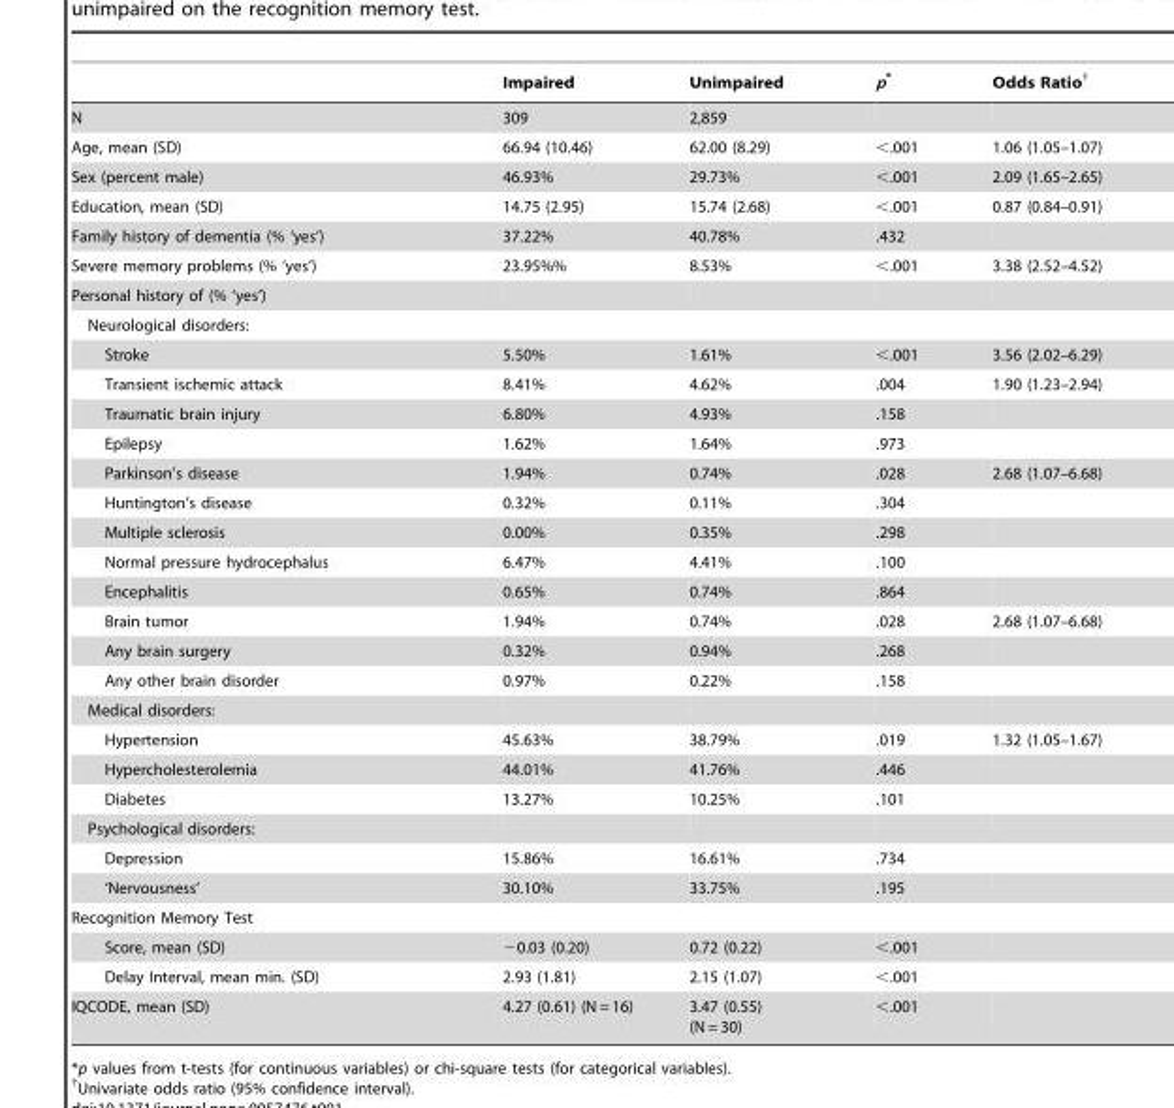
<table><thead><tr><td></td><td>Impaired</td><td>Unimpaired</td><td>p*</td><td>Odds Ratio†</td></tr></thead><tbody><tr><td>N</td><td>309</td><td>2,859</td><td></td><td></td></tr><tr><td>Age, mean (SD)</td><td>66.94 (10.46)</td><td>62.00 (8.29)</td><td>&lt;.001</td><td>1.06 (1.05–1.07)</td></tr><tr><td>Sex (percent male)</td><td>46.93%</td><td>29.73%</td><td>&lt;.001</td><td>2.09 (1.65–2.65)</td></tr><tr><td>Education, mean (SD)</td><td>14.75 (2.95)</td><td>15.74 (2.68)</td><td>&lt;.001</td><td>0.87 (0.84–0.91)</td></tr><tr><td>Family history of dementia (% ‘yes’)</td><td>37.22%</td><td>40.78%</td><td>.432</td><td></td></tr><tr><td>Severe memory problems (% ‘yes’)</td><td>23.95%%</td><td>8.53%</td><td>&lt;.001</td><td>3.38 (2.52–4.52)</td></tr><tr><td colspan="5">Personal history of (% ‘yes’)</td></tr><tr><td colspan="5">Neurological disorders:</td></tr><tr><td>Stroke</td><td>5.50%</td><td>1.61%</td><td>&lt;.001</td><td>3.56 (2.02–6.29)</td></tr><tr><td>Transient ischemic attack</td><td>8.41%</td><td>4.62%</td><td>.004</td><td>1.90 (1.23–2.94)</td></tr><tr><td>Traumatic brain injury</td><td>6.80%</td><td>4.93%</td><td>.158</td><td></td></tr><tr><td>Epilepsy</td><td>1.62%</td><td>1.64%</td><td>.973</td><td></td></tr><tr><td>Parkinson’s disease</td><td>1.94%</td><td>0.74%</td><td>.028</td><td>2.68 (1.07–6.68)</td></tr><tr><td>Huntington’s disease</td><td>0.32%</td><td>0.11%</td><td>.304</td><td></td></tr><tr><td>Multiple sclerosis</td><td>0.00%</td><td>0.35%</td><td>.298</td><td></td></tr><tr><td>Normal pressure hydrocephalus</td><td>6.47%</td><td>4.41%</td><td>.100</td><td></td></tr><tr><td>Encephalitis</td><td>0.65%</td><td>0.74%</td><td>.864</td><td></td></tr><tr><td>Brain tumor</td><td>1.94%</td><td>0.74%</td><td>.028</td><td>2.68 (1.07–6.68)</td></tr><tr><td>Any brain surgery</td><td>0.32%</td><td>0.94%</td><td>.268</td><td></td></tr><tr><td>Any other brain disorder</td><td>0.97%</td><td>0.22%</td><td>.158</td><td></td></tr><tr><td colspan="5">Medical disorders:</td></tr><tr><td>Hypertension</td><td>45.63%</td><td>38.79%</td><td>.019</td><td>1.32 (1.05–1.67)</td></tr><tr><td>Hypercholesterolemia</td><td>44.01%</td><td>41.76%</td><td>.446</td><td></td></tr><tr><td>Diabetes</td><td>13.27%</td><td>10.25%</td><td>.101</td><td></td></tr><tr><td colspan="5">Psychological disorders:</td></tr><tr><td>Depression</td><td>15.86%</td><td>16.61%</td><td>.734</td><td></td></tr><tr><td>‘Nervousness’</td><td>30.10%</td><td>33.75%</td><td>.195</td><td></td></tr><tr><td colspan="5">Recognition Memory Test</td></tr><tr><td>Score, mean (SD)</td><td>−0.03 (0.20)</td><td>0.72 (0.22)</td><td>&lt;.001</td><td></td></tr><tr><td>Delay Interval, mean min. (SD)</td><td>2.93 (1.81)</td><td>2.15 (1.07)</td><td>&lt;.001</td><td></td></tr><tr><td>IQCODE, mean (SD)</td><td>4.27 (0.61) (N = 16)</td><td>3.47 (0.55) (N = 30)</td><td>&lt;.001</td><td></td></tr></tbody></table>